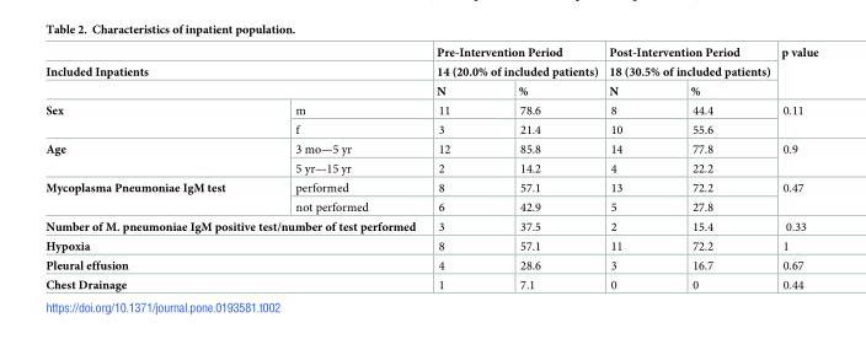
<table><thead><tr><td></td><td></td><td rowspan="2" colspan="2">Pre-Intervention Period 14 (20.0% of included patients)</td><td rowspan="2" colspan="2">Post-Intervention Period 18 (30.5% of included patients)</td><td rowspan="3">p value</td></tr><tr><td colspan="2">Included Inpatients</td></tr><tr><td></td><td></td><td>N</td><td>%</td><td>N</td><td>%</td></tr></thead><tbody><tr><td rowspan="2">Sex</td><td>m</td><td>11</td><td>78.6</td><td>8</td><td>44.4</td><td rowspan="2">0.11</td></tr><tr><td>f</td><td>3</td><td>21.4</td><td>10</td><td>55.6</td></tr><tr><td rowspan="2">Age</td><td>3 mo—5 yr</td><td>12</td><td>85.8</td><td>14</td><td>77.8</td><td rowspan="2">0.9</td></tr><tr><td>5 yr—15 yr</td><td>2</td><td>14.2</td><td>4</td><td>22.2</td></tr><tr><td rowspan="2">Mycoplasma Pneumoniae IgM test</td><td>performed</td><td>8</td><td>57.1</td><td>13</td><td>72.2</td><td rowspan="2">0.47</td></tr><tr><td>not performed</td><td>6</td><td>42.9</td><td>5</td><td>27.8</td></tr><tr><td colspan="2">Number of M. pneumoniae IgM positive test/number of test performed</td><td>3</td><td>37.5</td><td>2</td><td>15.4</td><td>0.33</td></tr><tr><td colspan="2">Hypoxia</td><td>8</td><td>57.1</td><td>11</td><td>72.2</td><td>1</td></tr><tr><td colspan="2">Pleural effusion</td><td>4</td><td>28.6</td><td>3</td><td>16.7</td><td>0.67</td></tr><tr><td colspan="2">Chest Drainage</td><td>1</td><td>7.1</td><td>0</td><td>0</td><td>0.44</td></tr></tbody></table>